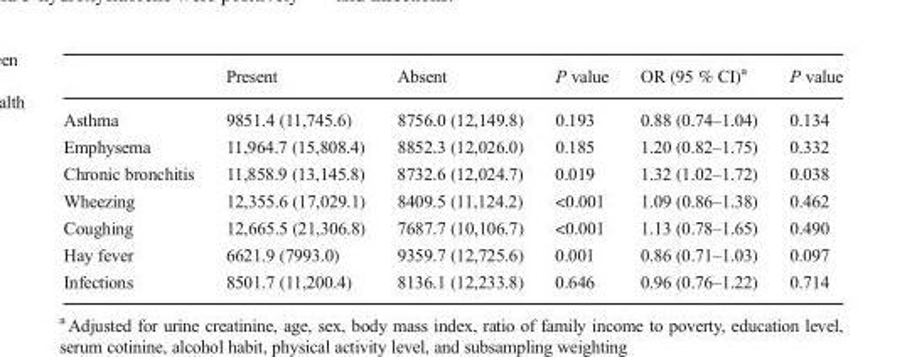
<table><thead><tr><td></td><td>Present</td><td>Absent</td><td>P value</td><td>OR (95 % CI)<sup>a</sup></td><td>P value</td></tr></thead><tbody><tr><td>Asthma</td><td>9851.4 (11,745.6)</td><td>8756.0 (12,149.8)</td><td>0.193</td><td>0.88 (0.74–1.04)</td><td>0.134</td></tr><tr><td>Emphysema</td><td>11,964.7 (15,808.4)</td><td>8852.3 (12,026.0)</td><td>0.185</td><td>1.20 (0.82–1.75)</td><td>0.332</td></tr><tr><td>Chronic bronchitis</td><td>11,858.9 (13,145.8)</td><td>8732.6 (12,024.7)</td><td>0.019</td><td>1.32 (1.02–1.72)</td><td>0.038</td></tr><tr><td>Wheezing</td><td>12,355.6 (17,029.1)</td><td>8409.5 (11,124.2)</td><td>&lt;0.001</td><td>1.09 (0.86–1.38)</td><td>0.462</td></tr><tr><td>Coughing</td><td>12,665.5 (21,306.8)</td><td>7687.7 (10,106.7)</td><td>&lt;0.001</td><td>1.13 (0.78–1.65)</td><td>0.490</td></tr><tr><td>Hay fever</td><td>6621.9 (7993.0)</td><td>9359.7 (12,725.6)</td><td>0.001</td><td>0.86 (0.71–1.03)</td><td>0.097</td></tr><tr><td>Infections</td><td>8501.7 (11,200.4)</td><td>8136.1 (12,233.8)</td><td>0.646</td><td>0.96 (0.76–1.22)</td><td>0.714</td></tr></tbody></table>